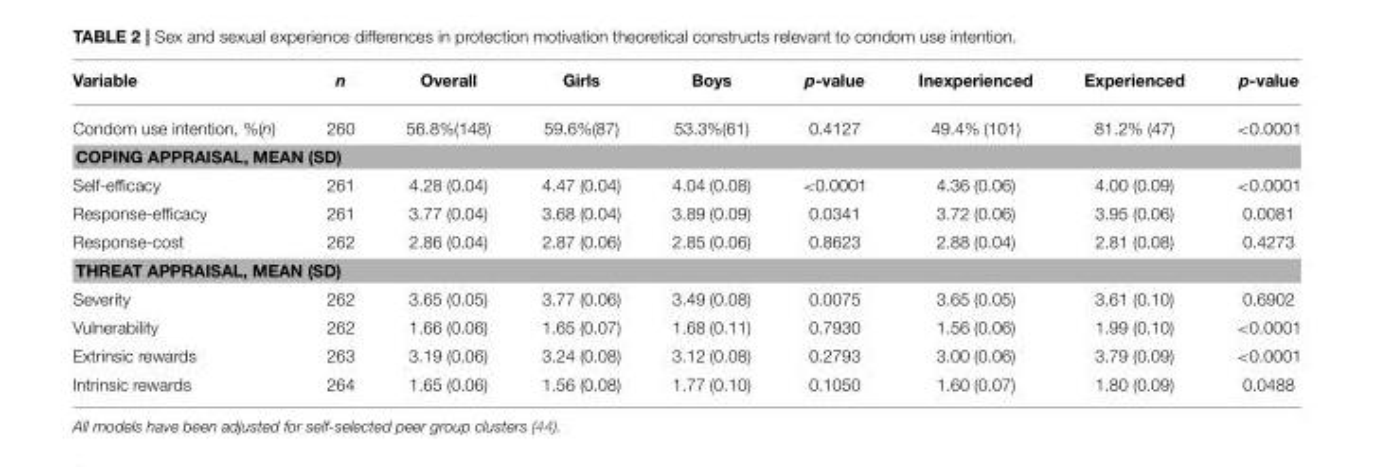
<table><thead><tr><td>Variable</td><td>n</td><td>Overall</td><td>Girls</td><td>Boys</td><td>p-value</td><td>Inexperienced</td><td>Experienced</td><td>p-value</td></tr></thead><tbody><tr><td>Condom use intention, %(n)</td><td>260</td><td>56.8%(148)</td><td>59.6%(87)</td><td>53.3%(61)</td><td>0.4127</td><td>49.4% (101)</td><td>81.2% (47)</td><td>&lt;0.0001</td></tr><tr><td colspan="9">COPING APPRAISAL, MEAN (SD)</td></tr><tr><td>Self-efficacy</td><td>261</td><td>4.28 (0.04)</td><td>4.47 (0.04)</td><td>4.04 (0.08)</td><td>&lt;0.0001</td><td>4.36 (0.06)</td><td>4.00 (0.09)</td><td>&lt;0.0001</td></tr><tr><td>Response-efficacy</td><td>261</td><td>3.77 (0.04)</td><td>3.68 (0.04)</td><td>3.89 (0.09)</td><td>0.0341</td><td>3.72 (0.06)</td><td>3.95 (0.06)</td><td>0.0081</td></tr><tr><td>Response-cost</td><td>262</td><td>2.86 (0.04)</td><td>2.87 (0.06)</td><td>2.85 (0.06)</td><td>0.8623</td><td>2.88 (0.04)</td><td>2.81 (0.08)</td><td>0.4273</td></tr><tr><td colspan="9">THREAT APPRAISAL, MEAN (SD)</td></tr><tr><td>Severity</td><td>262</td><td>3.65 (0.05)</td><td>3.77 (0.06)</td><td>3.49 (0.08)</td><td>0.0075</td><td>3.65 (0.05)</td><td>3.61 (0.10)</td><td>0.6902</td></tr><tr><td>Vulnerability</td><td>262</td><td>1.66 (0.06)</td><td>1.65 (0.07)</td><td>1.68 (0.11)</td><td>0.7930</td><td>1.56 (0.06)</td><td>1.99 (0.10)</td><td>&lt;0.0001</td></tr><tr><td>Extrinsic rewards</td><td>263</td><td>3.19 (0.06)</td><td>3.24 (0.08)</td><td>3.12 (0.08)</td><td>0.2793</td><td>3.00 (0.06)</td><td>3.79 (0.09)</td><td>&lt;0.0001</td></tr><tr><td>Intrinsic rewards</td><td>264</td><td>1.65 (0.06)</td><td>1.56 (0.08)</td><td>1.77 (0.10)</td><td>0.1050</td><td>1.60 (0.07)</td><td>1.80 (0.09)</td><td>0.0488</td></tr></tbody></table>